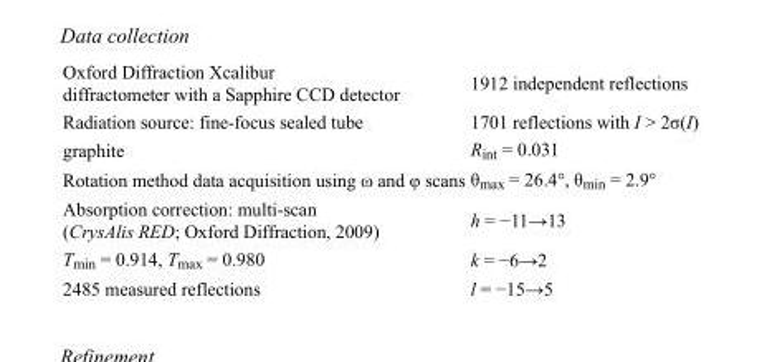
<table><tbody><tr><td>Oxford Diffraction Xcalibur diffractometer with a Sapphire CCD detector</td><td>1912 independent reflections</td></tr><tr><td>Radiation source: fine-focus sealed tube</td><td>1701 reflections with I &gt; 2σ(I)</td></tr><tr><td>graphite</td><td>R<sub>int</sub> = 0.031</td></tr><tr><td>Rotation method data acquisition using ω and φ scans</td><td>θ<sub>max</sub> = 26.4°, θ<sub>min</sub> = 2.9°</td></tr><tr><td>Absorption correction: multi-scan (CrysAlis RED; Oxford Diffraction, 2009)</td><td>h = −11→13</td></tr><tr><td>T<sub>min</sub> = 0.914, T<sub>max</sub> = 0.980</td><td>k = −6→2</td></tr><tr><td>2485 measured reflections</td><td>l = −15→5</td></tr></tbody></table>